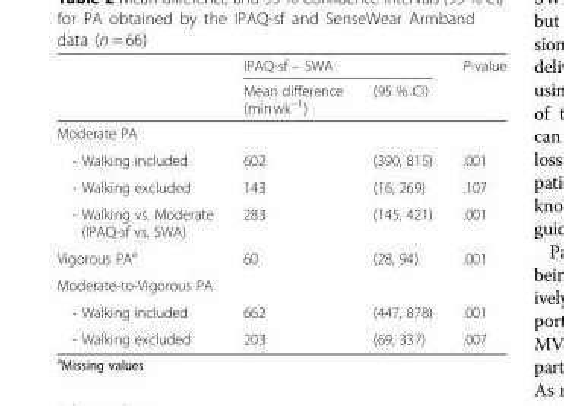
<table><thead><tr><td rowspan="2"></td><td colspan="2">IPAQ-sf – SWA</td><td rowspan="2">P-value</td></tr><tr><td>Mean difference (min<sup>.</sup>wk<sup>−1</sup>)</td><td>(95 % CI)</td></tr></thead><tbody><tr><td colspan="4">Moderate PA</td></tr><tr><td>- Walking included</td><td>602</td><td>(390, 815)</td><td>.001</td></tr><tr><td>- Walking excluded</td><td>143</td><td>(16, 269)</td><td>.107</td></tr><tr><td>- Walking vs. Moderate (IPAQ-sf vs. SWA)</td><td>283</td><td>(145, 421)</td><td>.001</td></tr><tr><td>Vigorous PA<sup>a</sup></td><td>60</td><td>(28, 94)</td><td>.001</td></tr><tr><td colspan="4">Moderate-to-Vigorous PA</td></tr><tr><td>- Walking included</td><td>662</td><td>(447, 878)</td><td>.001</td></tr><tr><td>- Walking excluded</td><td>203</td><td>(69, 337)</td><td>.007</td></tr></tbody></table>